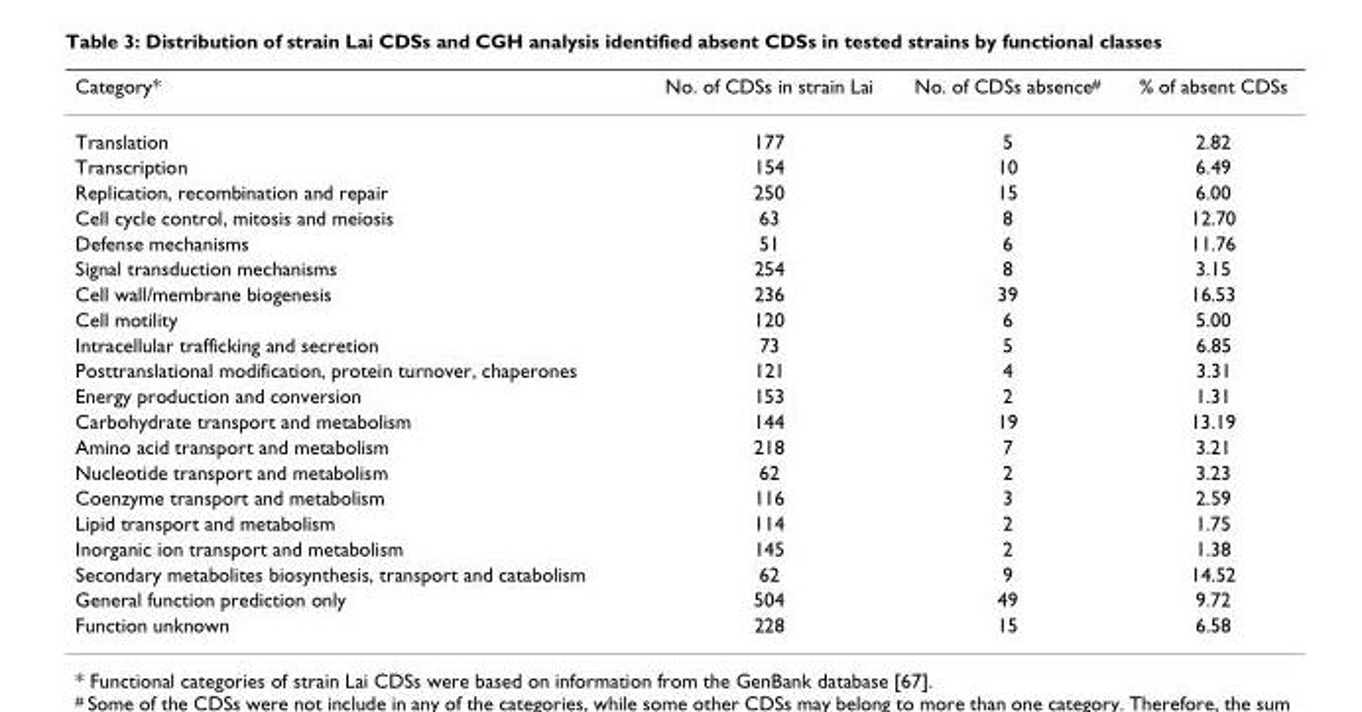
<table><thead><tr><td>Category*</td><td>No. of CDSs in strain Lai</td><td>No. of CDSs absence<sup>#</sup></td><td>% of absent CDSs</td></tr></thead><tbody><tr><td>Translation</td><td>177</td><td>5</td><td>2.82</td></tr><tr><td>Transcription</td><td>154</td><td>10</td><td>6.49</td></tr><tr><td>Replication, recombination and repair</td><td>250</td><td>15</td><td>6.00</td></tr><tr><td>Cell cycle control, mitosis and meiosis</td><td>63</td><td>8</td><td>12.70</td></tr><tr><td>Defense mechanisms</td><td>51</td><td>6</td><td>11.76</td></tr><tr><td>Signal transduction mechanisms</td><td>254</td><td>8</td><td>3.15</td></tr><tr><td>Cell wall/membrane biogenesis</td><td>236</td><td>39</td><td>16.53</td></tr><tr><td>Cell motility</td><td>120</td><td>6</td><td>5.00</td></tr><tr><td>Intracellular trafficking and secretion</td><td>73</td><td>5</td><td>6.85</td></tr><tr><td>Posttranslational modification, protein turnover, chaperones</td><td>121</td><td>4</td><td>3.31</td></tr><tr><td>Energy production and conversion</td><td>153</td><td>2</td><td>1.31</td></tr><tr><td>Carbohydrate transport and metabolism</td><td>144</td><td>19</td><td>13.19</td></tr><tr><td>Amino acid transport and metabolism</td><td>218</td><td>7</td><td>3.21</td></tr><tr><td>Nucleotide transport and metabolism</td><td>62</td><td>2</td><td>3.23</td></tr><tr><td>Coenzyme transport and metabolism</td><td>116</td><td>3</td><td>2.59</td></tr><tr><td>Lipid transport and metabolism</td><td>114</td><td>2</td><td>1.75</td></tr><tr><td>Inorganic ion transport and metabolism</td><td>145</td><td>2</td><td>1.38</td></tr><tr><td>Secondary metabolites biosynthesis, transport and catabolism</td><td>62</td><td>9</td><td>14.52</td></tr><tr><td>General function prediction only</td><td>504</td><td>49</td><td>9.72</td></tr><tr><td>Function unknown</td><td>228</td><td>15</td><td>6.58</td></tr></tbody></table>